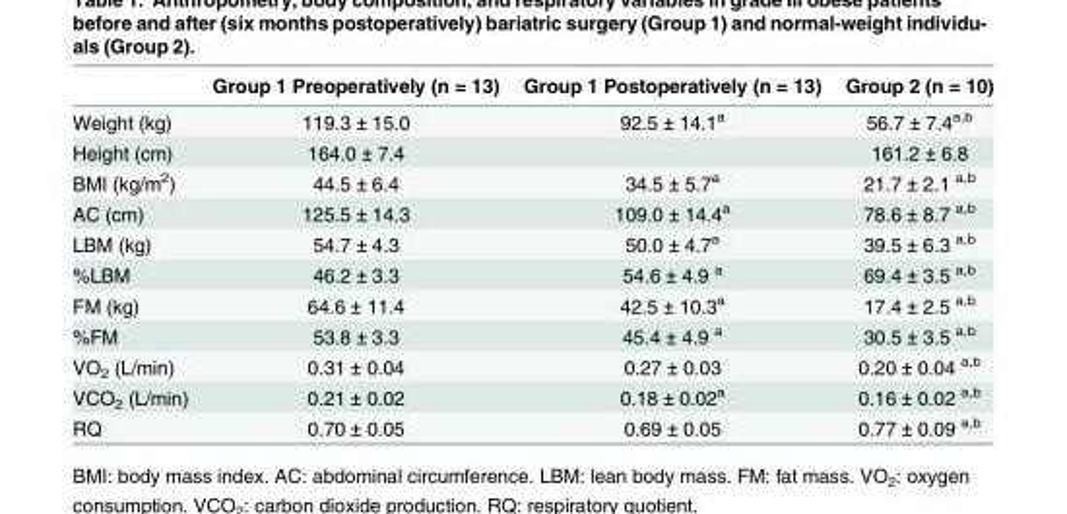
<table><thead><tr><td></td><td>Group 1 Preoperatively (n = 13)</td><td>Group 1 Postoperatively (n = 13)</td><td>Group 2 (n = 10)</td></tr></thead><tbody><tr><td>Weight (kg)</td><td>119.3 ± 15.0</td><td>92.5 ± 14.1<sup>a</sup></td><td>56.7 ± 7.4<sup>a,b</sup></td></tr><tr><td>Height (cm)</td><td>164.0 ± 7.4</td><td></td><td>161.2 ± 6.8</td></tr><tr><td>BMI (kg/m<sup>2</sup>)</td><td>44.5 ± 6.4</td><td>34.5 ± 5.7<sup>a</sup></td><td>21.7 ± 2.1 <sup>a,b</sup></td></tr><tr><td>AC (cm)</td><td>125.5 ± 14.3</td><td>109.0 ± 14.4<sup>a</sup></td><td>78.6 ± 8.7 <sup>a,b</sup></td></tr><tr><td>LBM (kg)</td><td>54.7 ± 4.3</td><td>50.0 ± 4.7<sup>a</sup></td><td>39.5 ± 6.3 <sup>a,b</sup></td></tr><tr><td>%LBM</td><td>46.2 ± 3.3</td><td>54.6 ± 4.9 <sup>a</sup></td><td>69.4 ± 3.5 <sup>a,b</sup></td></tr><tr><td>FM (kg)</td><td>64.6 ± 11.4</td><td>42.5 ± 10.3<sup>a</sup></td><td>17.4 ± 2.5 <sup>a,b</sup></td></tr><tr><td>%FM</td><td>53.8 ± 3.3</td><td>45.4 ± 4.9 <sup>a</sup></td><td>30.5 ± 3.5 <sup>a,b</sup></td></tr><tr><td>VO<sub>2</sub> (L/min)</td><td>0.31 ± 0.04</td><td>0.27 ± 0.03</td><td>0.20 ± 0.04 <sup>a,b</sup></td></tr><tr><td>VCO<sub>2</sub> (L/min)</td><td>0.21 ± 0.02</td><td>0.18 ± 0.02<sup>a</sup></td><td>0.16 ± 0.02 <sup>a,b</sup></td></tr><tr><td>RQ</td><td>0.70 ± 0.05</td><td>0.69 ± 0.05</td><td>0.77 ± 0.09 <sup>a,b</sup></td></tr></tbody></table>